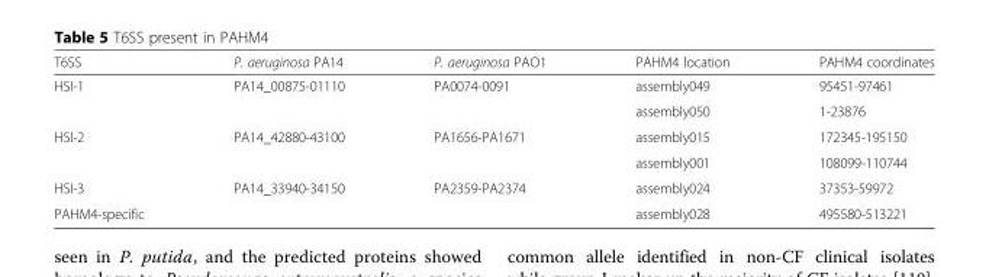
<table><thead><tr><td>T6SS</td><td>P. aeruginosa PA14</td><td>P. aeruginosa PAO1</td><td>PAHM4 location</td><td>PAHM4 coordinates</td></tr></thead><tbody><tr><td rowspan="2">HSI-1</td><td>PA14_00875-01110</td><td>PA0074-0091</td><td>assembly049</td><td>95451-97461</td></tr><tr><td></td><td></td><td>assembly050</td><td>1-23876</td></tr><tr><td rowspan="2">HSI-2</td><td>PA14_42880-43100</td><td>PA1656-PA1671</td><td>assembly015</td><td>172345-195150</td></tr><tr><td></td><td></td><td>assembly001</td><td>108099-110744</td></tr><tr><td>HSI-3</td><td>PA14_33940-34150</td><td>PA2359-PA2374</td><td>assembly024</td><td>37353-59972</td></tr><tr><td>PAHM4-specific</td><td></td><td></td><td>assembly028</td><td>495580-513221</td></tr></tbody></table>